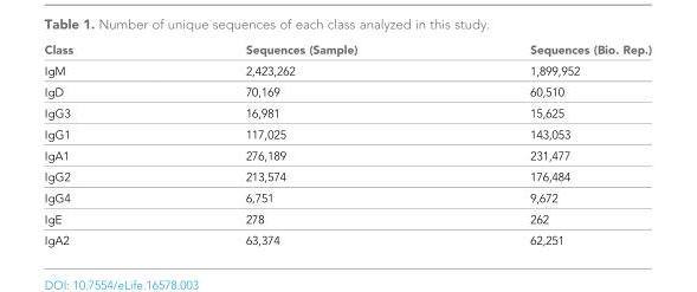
<table><thead><tr><td>Class</td><td>Sequences (Sample)</td><td>Sequences (Bio. Rep.)</td></tr></thead><tbody><tr><td>IgM</td><td>2,423,262</td><td>1,899,952</td></tr><tr><td>IgD</td><td>70,169</td><td>60,510</td></tr><tr><td>IgG3</td><td>16,981</td><td>15,625</td></tr><tr><td>IgG1</td><td>117,025</td><td>143,053</td></tr><tr><td>IgA1</td><td>276,189</td><td>231,477</td></tr><tr><td>IgG2</td><td>213,574</td><td>176,484</td></tr><tr><td>IgG4</td><td>6,751</td><td>9,672</td></tr><tr><td>IgE</td><td>278</td><td>262</td></tr><tr><td>IgA2</td><td>63,374</td><td>62,251</td></tr></tbody></table>